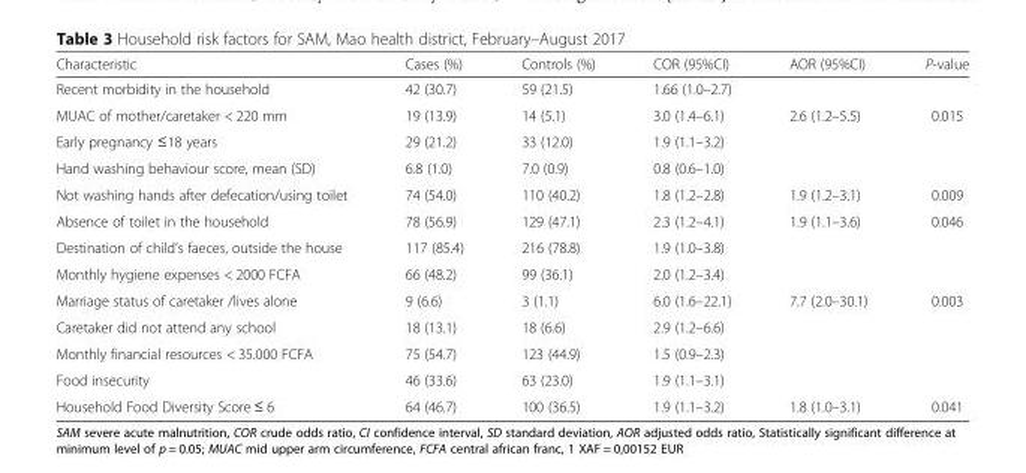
<table><thead><tr><td>Characteristic</td><td>Cases (%)</td><td>Controls (%)</td><td>COR (95%CI)</td><td>AOR (95%CI)</td><td>P-value</td></tr></thead><tbody><tr><td>Recent morbidity in the household</td><td>42 (30.7)</td><td>59 (21.5)</td><td>1.66 (1.0–2.7)</td><td></td><td></td></tr><tr><td>MUAC of mother/caretaker &lt; 220 mm</td><td>19 (13.9)</td><td>14 (5.1)</td><td>3.0 (1.4–6.1)</td><td>2.6 (1.2–5.5)</td><td>0.015</td></tr><tr><td>Early pregnancy ≤18 years</td><td>29 (21.2)</td><td>33 (12.0)</td><td>1.9 (1.1–3.2)</td><td></td><td></td></tr><tr><td>Hand washing behaviour score, mean (SD)</td><td>6.8 (1.0)</td><td>7.0 (0.9)</td><td>0.8 (0.6–1.0)</td><td></td><td></td></tr><tr><td>Not washing hands after defecation/using toilet</td><td>74 (54.0)</td><td>110 (40.2)</td><td>1.8 (1.2–2.8)</td><td>1.9 (1.2–3.1)</td><td>0.009</td></tr><tr><td>Absence of toilet in the household</td><td>78 (56.9)</td><td>129 (47.1)</td><td>2.3 (1.2–4.1)</td><td>1.9 (1.1–3.6)</td><td>0.046</td></tr><tr><td>Destination of child’s faeces, outside the house</td><td>117 (85.4)</td><td>216 (78.8)</td><td>1.9 (1.0–3.8)</td><td></td><td></td></tr><tr><td>Monthly hygiene expenses &lt; 2000 FCFA</td><td>66 (48.2)</td><td>99 (36.1)</td><td>2.0 (1.2–3.4)</td><td></td><td></td></tr><tr><td>Marriage status of caretaker /lives alone</td><td>9 (6.6)</td><td>3 (1.1)</td><td>6.0 (1.6–22.1)</td><td>7.7 (2.0–30.1)</td><td>0.003</td></tr><tr><td>Caretaker did not attend any school</td><td>18 (13.1)</td><td>18 (6.6)</td><td>2.9 (1.2–6.6)</td><td></td><td></td></tr><tr><td>Monthly financial resources &lt; 35.000 FCFA</td><td>75 (54.7)</td><td>123 (44.9)</td><td>1.5 (0.9–2.3)</td><td></td><td></td></tr><tr><td>Food insecurity</td><td>46 (33.6)</td><td>63 (23.0)</td><td>1.9 (1.1–3.1)</td><td></td><td></td></tr><tr><td>Household Food Diversity Score ≤ 6</td><td>64 (46.7)</td><td>100 (36.5)</td><td>1.9 (1.1–3.2)</td><td>1.8 (1.0–3.1)</td><td>0.041</td></tr></tbody></table>